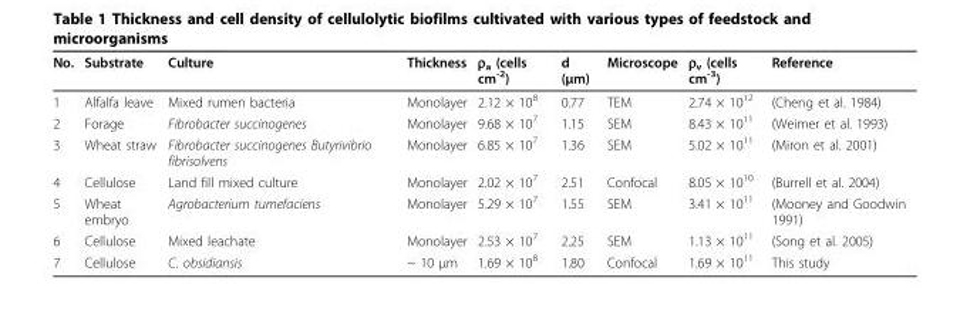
<table><thead><tr><td>No.</td><td>Substrate</td><td>Culture</td><td>Thickness</td><td>ρ<sub>a</sub> (cells cm<sup>-2</sup>)</td><td>d (μm)</td><td>Microscope</td><td>ρ<sub>v</sub> (cells cm<sup>-3</sup>)</td><td>Reference</td></tr></thead><tbody><tr><td>1</td><td>Alfalfa leave</td><td>Mixed rumen bacteria</td><td>Monolayer</td><td>2.12 × 10<sup>8</sup></td><td>0.77</td><td>TEM</td><td>2.74 × 10<sup>12</sup></td><td>(Cheng et al. 1984)</td></tr><tr><td>2</td><td>Forage</td><td>Fibrobacter succinogenes</td><td>Monolayer</td><td>9.68 × 10<sup>7</sup></td><td>1.15</td><td>SEM</td><td>8.43 × 10<sup>11</sup></td><td>(Weimer et al. 1993)</td></tr><tr><td>3</td><td>Wheat straw</td><td>Fibrobacter succinogenes Butyrivibrio fibrisolvens</td><td>Monolayer</td><td>6.85 × 10<sup>7</sup></td><td>1.36</td><td>SEM</td><td>5.02 × 10<sup>11</sup></td><td>(Miron et al. 2001)</td></tr><tr><td>4</td><td>Cellulose</td><td>Land fill mixed culture</td><td>Monolayer</td><td>2.02 × 10<sup>7</sup></td><td>2.51</td><td>Confocal</td><td>8.05 × 10<sup>10</sup></td><td>(Burrell et al. 2004)</td></tr><tr><td>5</td><td>Wheat embryo</td><td>Agrobacterium tumefaciens</td><td>Monolayer</td><td>5.29 × 10<sup>7</sup></td><td>1.55</td><td>SEM</td><td>3.41 × 10<sup>11</sup></td><td>(Mooney and Goodwin 1991)</td></tr><tr><td>6</td><td>Cellulose</td><td>Mixed leachate</td><td>Monolayer</td><td>2.53 × 10<sup>7</sup></td><td>2.25</td><td>SEM</td><td>1.13 × 10<sup>11</sup></td><td>(Song et al. 2005)</td></tr><tr><td>7</td><td>Cellulose</td><td>C. obsidiansis</td><td>~ 10 μm</td><td>1.69 × 10<sup>8</sup></td><td>1.80</td><td>Confocal</td><td>1.69 × 10<sup>11</sup></td><td>This study</td></tr></tbody></table>